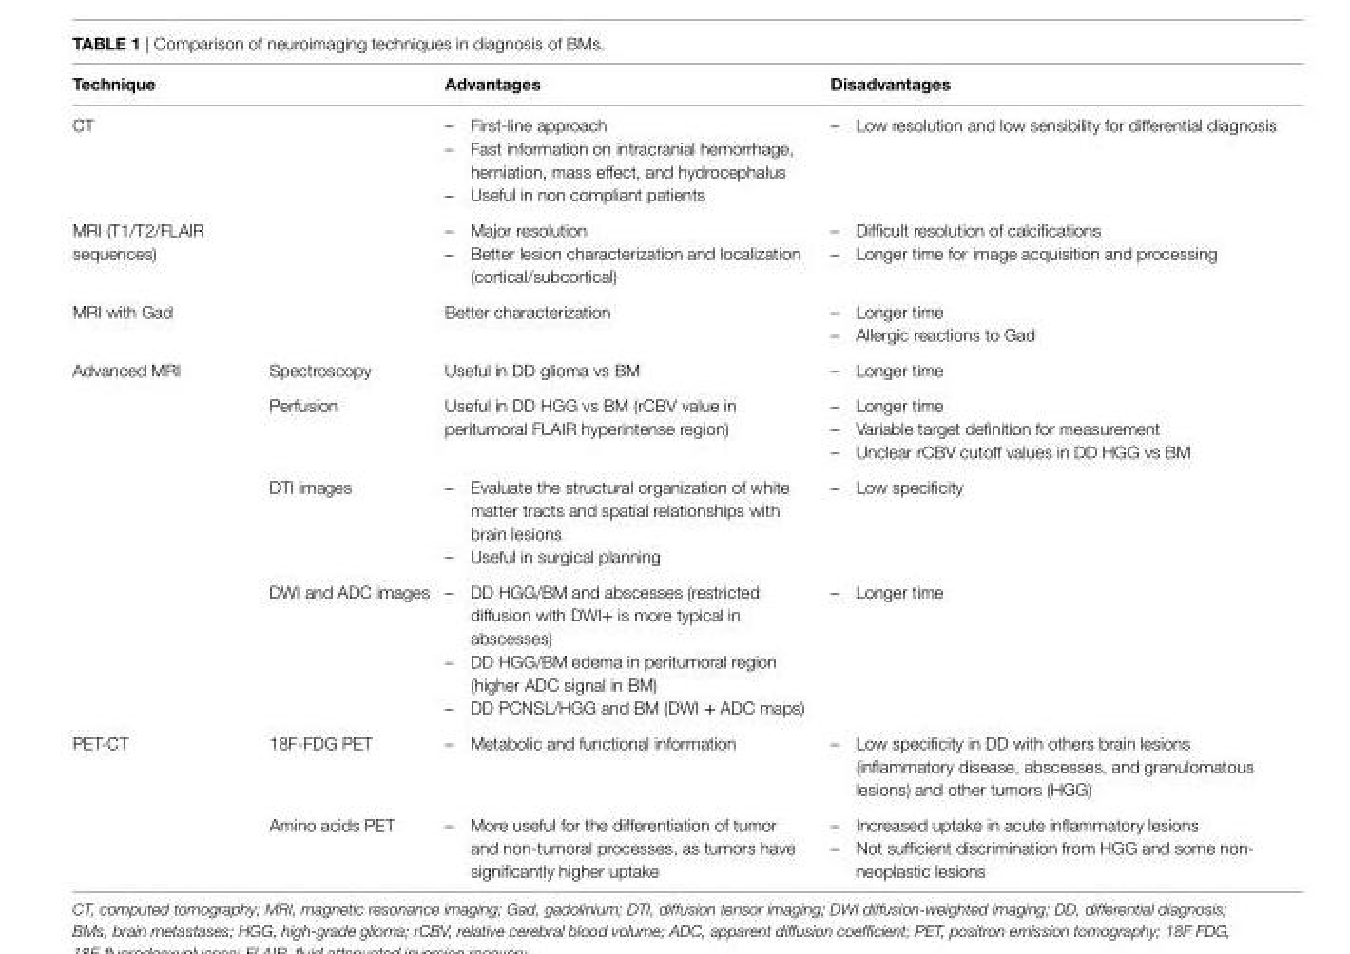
<table><thead><tr><td>Technique</td><td></td><td>Advantages</td><td>Disadvantages</td></tr></thead><tbody><tr><td>CT</td><td></td><td>– First-line approach – Fast information on intracranial hemorrhage, herniation, mass effect, and hydrocephalus – Useful in non compliant patients</td><td>– Low resolution and low sensibility for differential diagnosis</td></tr><tr><td>MRI (T1/T2/FLAIR sequences)</td><td></td><td>– Major resolution – Better lesion characterization and localization (cortical/subcortical)</td><td>– Difficult resolution of calcifications – Longer time for image acquisition and processing</td></tr><tr><td>MRI with Gad</td><td></td><td>Better characterization</td><td>– Longer time – Allergic reactions to Gad</td></tr><tr><td rowspan="4">Advanced MRI</td><td>Spectroscopy</td><td>Useful in DD glioma vs BM</td><td>– Longer time</td></tr><tr><td>Perfusion</td><td>Useful in DD HGG vs BM (rCBV value in peritumoral FLAIR hyperintense region)</td><td>– Longer time – Variable target definition for measurement – Unclear rCBV cutoff values in DD HGG vs BM</td></tr><tr><td>DTI images</td><td>– Evaluate the structural organization of white matter tracts and spatial relationships with brain lesions – Useful in surgical planning</td><td>– Low specificity</td></tr><tr><td>DWI and ADC images</td><td>– DD HGG/BM and abscesses (restricted diffusion with DWI+ is more typical in abscesses) – DD HGG/BM edema in peritumoral region (higher ADC signal in BM) – DD PCNSL/HGG and BM (DWI + ADC maps)</td><td>– Longer time</td></tr><tr><td rowspan="2">PET-CT</td><td>18F-FDG PET</td><td>– Metabolic and functional information</td><td>– Low specificity in DD with others brain lesions (inflammatory disease, abscesses, and granulomatous lesions) and other tumors (HGG)</td></tr><tr><td>Amino acids PET</td><td>– More useful for the differentiation of tumor and non-tumoral processes, as tumors have significantly higher uptake</td><td>– Increased uptake in acute inflammatory lesions – Not sufficient discrimination from HGG and some non- neoplastic lesions</td></tr></tbody></table>